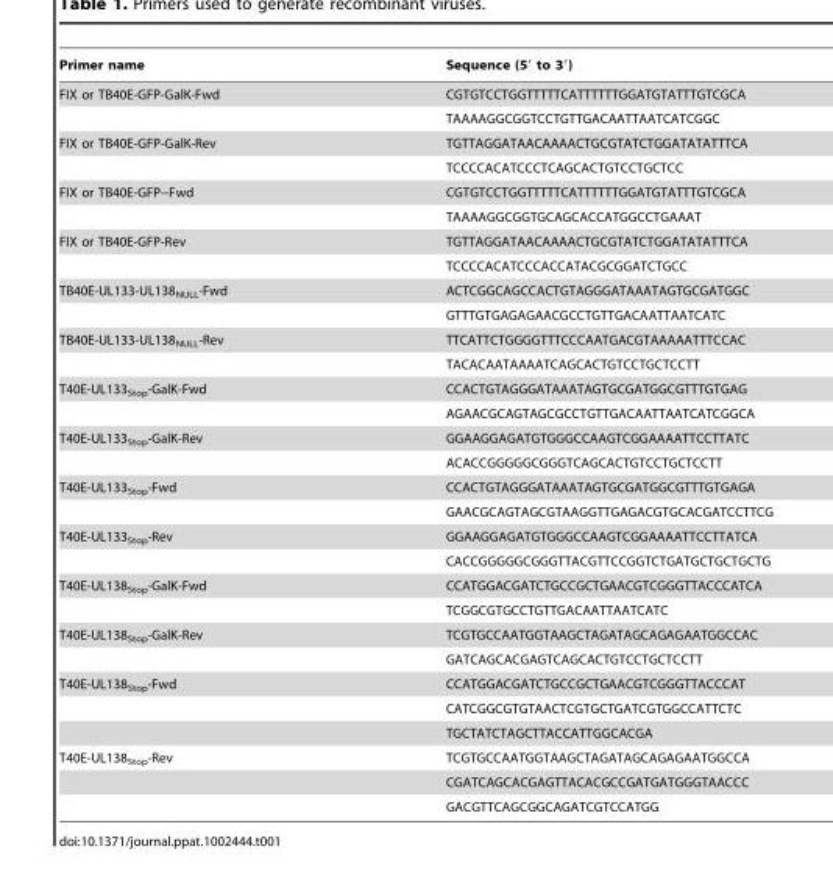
<table><thead><tr><td>Primer name</td><td>Sequence (5′ to 3′)</td></tr></thead><tbody><tr><td rowspan="2">FIX or TB40E-GFP-GalK-Fwd</td><td>CGTGTCCTGGTTTTTCATTTTTTGGATGTATTTGTCGCA</td></tr><tr><td>TAAAAGGCGGTCCTGTTGACAATTAATCATCGGC</td></tr><tr><td rowspan="2">FIX or TB40E-GFP-GalK-Rev</td><td>TGTTAGGATAACAAAACTGCGTATCTGGATATATTTCA</td></tr><tr><td>TCCCCACATCCCTCAGCACTGTCCTGCTCC</td></tr><tr><td rowspan="2">FIX or TB40E-GFP--Fwd</td><td>CGTGTCCTGGTTTTTCATTTTTTGGATGTATTTGTCGCA</td></tr><tr><td>TAAAAGGCGGTGCAGCACCATGGCCTGAAAT</td></tr><tr><td rowspan="2">FIX or TB40E-GFP-Rev</td><td>TGTTAGGATAACAAAACTGCGTATCTGGATATATTTCA</td></tr><tr><td>TCCCCACATCCCACCATACGCGGATCTGCC</td></tr><tr><td rowspan="2">TB40E-UL133-UL138<sub>NULL</sub>-Fwd</td><td>ACTCGGCAGCCACTGTAGGGATAAATAGTGCGATGGC</td></tr><tr><td>GTTTGTGAGAGAACGCCTGTTGACAATTAATCATC</td></tr><tr><td rowspan="2">TB40E-UL133-UL138<sub>NULL</sub>-Rev</td><td>TTCATTCTGGGGTTTCCCAATGACGTAAAAATTTCCAC</td></tr><tr><td>TACACAATAAAATCAGCACTGTCCTGCTCCTT</td></tr><tr><td rowspan="2">T40E-UL133<sub>Stop</sub>-GalK-Fwd</td><td>CCACTGTAGGGATAAATAGTGCGATGGCGTTTGTGAG</td></tr><tr><td>AGAACGCAGTAGCGCCTGTTGACAATTAATCATCGGCA</td></tr><tr><td rowspan="2">T40E-UL133<sub>Stop</sub>-GalK-Rev</td><td>GGAAGGAGATGTGGGCCAAGTCGGAAAATTCCTTATC</td></tr><tr><td>ACACCGGGGGCGGGTCAGCACTGTCCTGCTCCTT</td></tr><tr><td rowspan="2">T40E-UL133<sub>Stop</sub>-Fwd</td><td>CCACTGTAGGGATAAATAGTGCGATGGCGTTTGTGAGA</td></tr><tr><td>GAACGCAGTAGCGTAAGGTTGAGACGTGCACGATCCTTCG</td></tr><tr><td rowspan="2">T40E-UL133<sub>Stop</sub>-Rev</td><td>GGAAGGAGATGTGGGCCAAGTCGGAAAATTCCTTATCA</td></tr><tr><td>CACCGGGGGCGGGTTACGTTCCGGTCTGATGCTGCTGCTG</td></tr><tr><td rowspan="2">T40E-UL138<sub>Stop</sub>-GalK-Fwd</td><td>CCATGGACGATCTGCCGCTGAACGTCGGGTTACCCATCA</td></tr><tr><td>TCGGCGTGCCTGTTGACAATTAATCATC</td></tr><tr><td rowspan="2">T40E-UL138<sub>Stop</sub>-GalK-Rev</td><td>TCGTGCCAATGGTAAGCTAGATAGCAGAGAATGGCCAC</td></tr><tr><td>GATCAGCACGAGTCAGCACTGTCCTGCTCCTT</td></tr><tr><td rowspan="3">T40E-UL138<sub>Stop</sub>-Fwd</td><td>CCATGGACGATCTGCCGCTGAACGTCGGGTTACCCAT</td></tr><tr><td>CATCGGCGTGTAACTCGTGCTGATCGTGGCCATTCTC</td></tr><tr><td>TGCTATCTAGCTTACCATTGGCACGA</td></tr><tr><td rowspan="3">T40E-UL138<sub>Stop</sub>-Rev</td><td>TCGTGCCAATGGTAAGCTAGATAGCAGAGAATGGCCA</td></tr><tr><td>CGATCAGCACGAGTTACACGCCGATGATGGGTAACCC</td></tr><tr><td>GACGTTCAGCGGCAGATCGTCCATGG</td></tr></tbody></table>